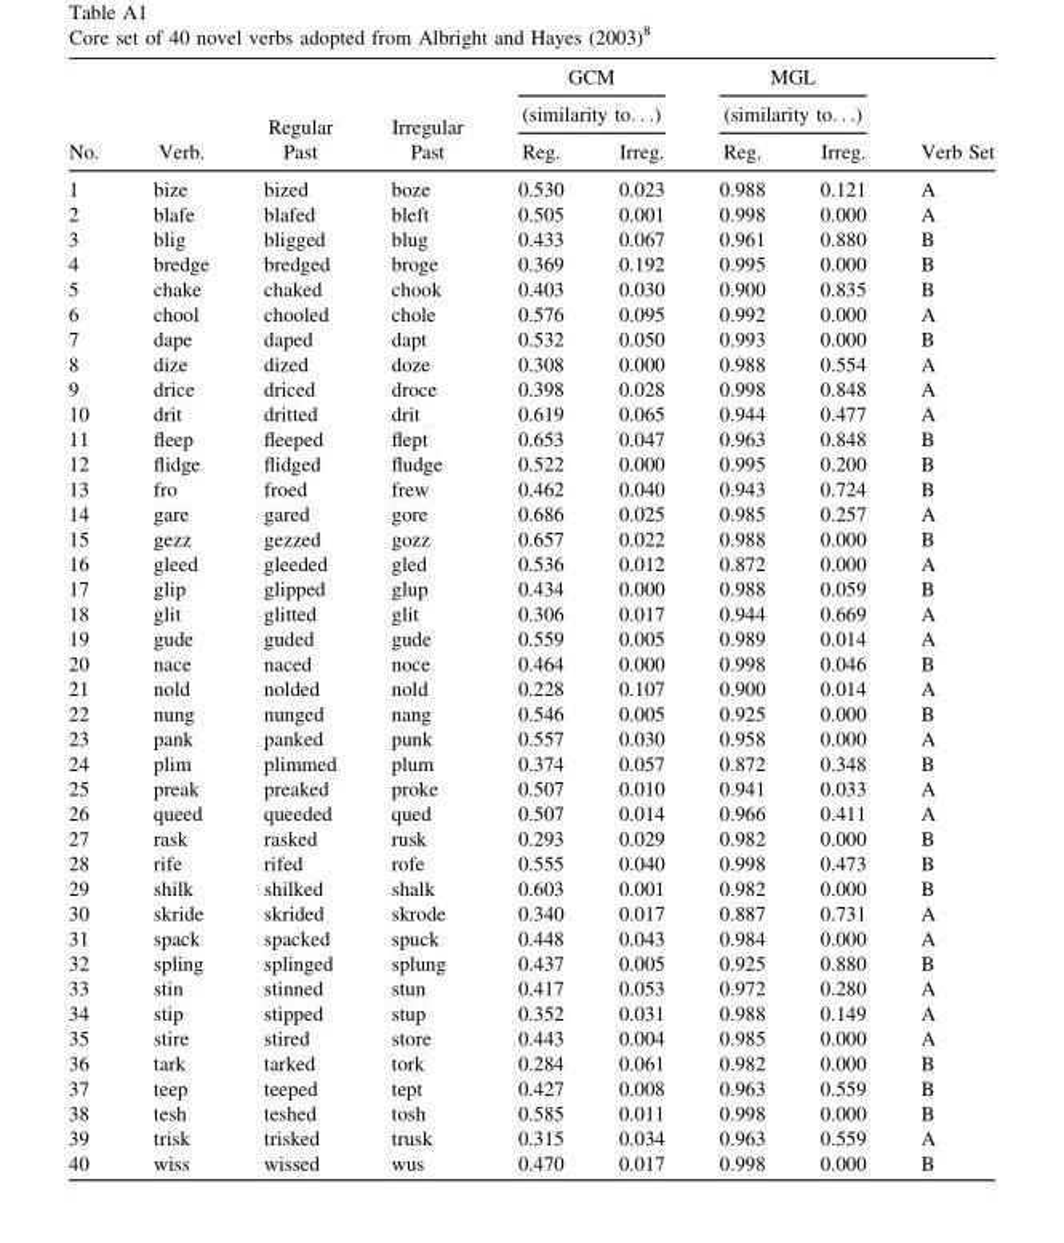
<table><thead><tr><td rowspan="3">No.</td><td rowspan="3">Verb.</td><td rowspan="3">Regular Past</td><td rowspan="3">Irregular Past</td><td rowspan="2" colspan="2">GCM (similarity to. . .)</td><td rowspan="2" colspan="2">MGL (similarity to. . .)</td><td rowspan="3">Verb Set</td></tr><tr></tr><tr><td>Reg.</td><td>Irreg.</td><td>Reg.</td><td>Irreg.</td></tr></thead><tbody><tr><td>1</td><td>bize</td><td>bized</td><td>boze</td><td>0.530</td><td>0.023</td><td>0.988</td><td>0.121</td><td>A</td></tr><tr><td>2</td><td>blafe</td><td>blafed</td><td>bleft</td><td>0.505</td><td>0.001</td><td>0.998</td><td>0.000</td><td>A</td></tr><tr><td>3</td><td>blig</td><td>bligged</td><td>blug</td><td>0.433</td><td>0.067</td><td>0.961</td><td>0.880</td><td>B</td></tr><tr><td>4</td><td>bredge</td><td>bredged</td><td>broge</td><td>0.369</td><td>0.192</td><td>0.995</td><td>0.000</td><td>B</td></tr><tr><td>5</td><td>chake</td><td>chaked</td><td>chook</td><td>0.403</td><td>0.030</td><td>0.900</td><td>0.835</td><td>B</td></tr><tr><td>6</td><td>chool</td><td>chooled</td><td>chole</td><td>0.576</td><td>0.095</td><td>0.992</td><td>0.000</td><td>A</td></tr><tr><td>7</td><td>dape</td><td>daped</td><td>dapt</td><td>0.532</td><td>0.050</td><td>0.993</td><td>0.000</td><td>B</td></tr><tr><td>8</td><td>dize</td><td>dized</td><td>doze</td><td>0.308</td><td>0.000</td><td>0.988</td><td>0.554</td><td>A</td></tr><tr><td>9</td><td>drice</td><td>driced</td><td>droce</td><td>0.398</td><td>0.028</td><td>0.998</td><td>0.848</td><td>A</td></tr><tr><td>10</td><td>drit</td><td>dritted</td><td>drit</td><td>0.619</td><td>0.065</td><td>0.944</td><td>0.477</td><td>A</td></tr><tr><td>11</td><td>fleep</td><td>fleeped</td><td>flept</td><td>0.653</td><td>0.047</td><td>0.963</td><td>0.848</td><td>B</td></tr><tr><td>12</td><td>flidge</td><td>flidged</td><td>fludge</td><td>0.522</td><td>0.000</td><td>0.995</td><td>0.200</td><td>B</td></tr><tr><td>13</td><td>fro</td><td>froed</td><td>frew</td><td>0.462</td><td>0.040</td><td>0.943</td><td>0.724</td><td>B</td></tr><tr><td>14</td><td>gare</td><td>gared</td><td>gore</td><td>0.686</td><td>0.025</td><td>0.985</td><td>0.257</td><td>A</td></tr><tr><td>15</td><td>gezz</td><td>gezzed</td><td>gozz</td><td>0.657</td><td>0.022</td><td>0.988</td><td>0.000</td><td>B</td></tr><tr><td>16</td><td>gleed</td><td>gleeded</td><td>gled</td><td>0.536</td><td>0.012</td><td>0.872</td><td>0.000</td><td>A</td></tr><tr><td>17</td><td>glip</td><td>glipped</td><td>glup</td><td>0.434</td><td>0.000</td><td>0.988</td><td>0.059</td><td>B</td></tr><tr><td>18</td><td>glit</td><td>glitted</td><td>glit</td><td>0.306</td><td>0.017</td><td>0.944</td><td>0.669</td><td>A</td></tr><tr><td>19</td><td>gude</td><td>guded</td><td>gude</td><td>0.559</td><td>0.005</td><td>0.989</td><td>0.014</td><td>A</td></tr><tr><td>20</td><td>nace</td><td>naced</td><td>noce</td><td>0.464</td><td>0.000</td><td>0.998</td><td>0.046</td><td>B</td></tr><tr><td>21</td><td>nold</td><td>nolded</td><td>nold</td><td>0.228</td><td>0.107</td><td>0.900</td><td>0.014</td><td>A</td></tr><tr><td>22</td><td>nung</td><td>nunged</td><td>nang</td><td>0.546</td><td>0.005</td><td>0.925</td><td>0.000</td><td>B</td></tr><tr><td>23</td><td>pank</td><td>panked</td><td>punk</td><td>0.557</td><td>0.030</td><td>0.958</td><td>0.000</td><td>A</td></tr><tr><td>24</td><td>plim</td><td>plimmed</td><td>plum</td><td>0.374</td><td>0.057</td><td>0.872</td><td>0.348</td><td>B</td></tr><tr><td>25</td><td>preak</td><td>preaked</td><td>proke</td><td>0.507</td><td>0.010</td><td>0.941</td><td>0.033</td><td>A</td></tr><tr><td>26</td><td>queed</td><td>queeded</td><td>qued</td><td>0.507</td><td>0.014</td><td>0.966</td><td>0.411</td><td>A</td></tr><tr><td>27</td><td>rask</td><td>rasked</td><td>rusk</td><td>0.293</td><td>0.029</td><td>0.982</td><td>0.000</td><td>B</td></tr><tr><td>28</td><td>rife</td><td>rifed</td><td>rofe</td><td>0.555</td><td>0.040</td><td>0.998</td><td>0.473</td><td>B</td></tr><tr><td>29</td><td>shilk</td><td>shilked</td><td>shalk</td><td>0.603</td><td>0.001</td><td>0.982</td><td>0.000</td><td>B</td></tr><tr><td>30</td><td>skride</td><td>skrided</td><td>skrode</td><td>0.340</td><td>0.017</td><td>0.887</td><td>0.731</td><td>A</td></tr><tr><td>31</td><td>spack</td><td>spacked</td><td>spuck</td><td>0.448</td><td>0.043</td><td>0.984</td><td>0.000</td><td>A</td></tr><tr><td>32</td><td>spling</td><td>splinged</td><td>splung</td><td>0.437</td><td>0.005</td><td>0.925</td><td>0.880</td><td>B</td></tr><tr><td>33</td><td>stin</td><td>stinned</td><td>stun</td><td>0.417</td><td>0.053</td><td>0.972</td><td>0.280</td><td>A</td></tr><tr><td>34</td><td>stip</td><td>stipped</td><td>stup</td><td>0.352</td><td>0.031</td><td>0.988</td><td>0.149</td><td>A</td></tr><tr><td>35</td><td>stire</td><td>stired</td><td>store</td><td>0.443</td><td>0.004</td><td>0.985</td><td>0.000</td><td>A</td></tr><tr><td>36</td><td>tark</td><td>tarked</td><td>tork</td><td>0.284</td><td>0.061</td><td>0.982</td><td>0.000</td><td>B</td></tr><tr><td>37</td><td>teep</td><td>teeped</td><td>tept</td><td>0.427</td><td>0.008</td><td>0.963</td><td>0.559</td><td>B</td></tr><tr><td>38</td><td>tesh</td><td>teshed</td><td>tosh</td><td>0.585</td><td>0.011</td><td>0.998</td><td>0.000</td><td>B</td></tr><tr><td>39</td><td>trisk</td><td>trisked</td><td>trusk</td><td>0.315</td><td>0.034</td><td>0.963</td><td>0.559</td><td>A</td></tr><tr><td>40</td><td>wiss</td><td>wissed</td><td>wus</td><td>0.470</td><td>0.017</td><td>0.998</td><td>0.000</td><td>B</td></tr></tbody></table>